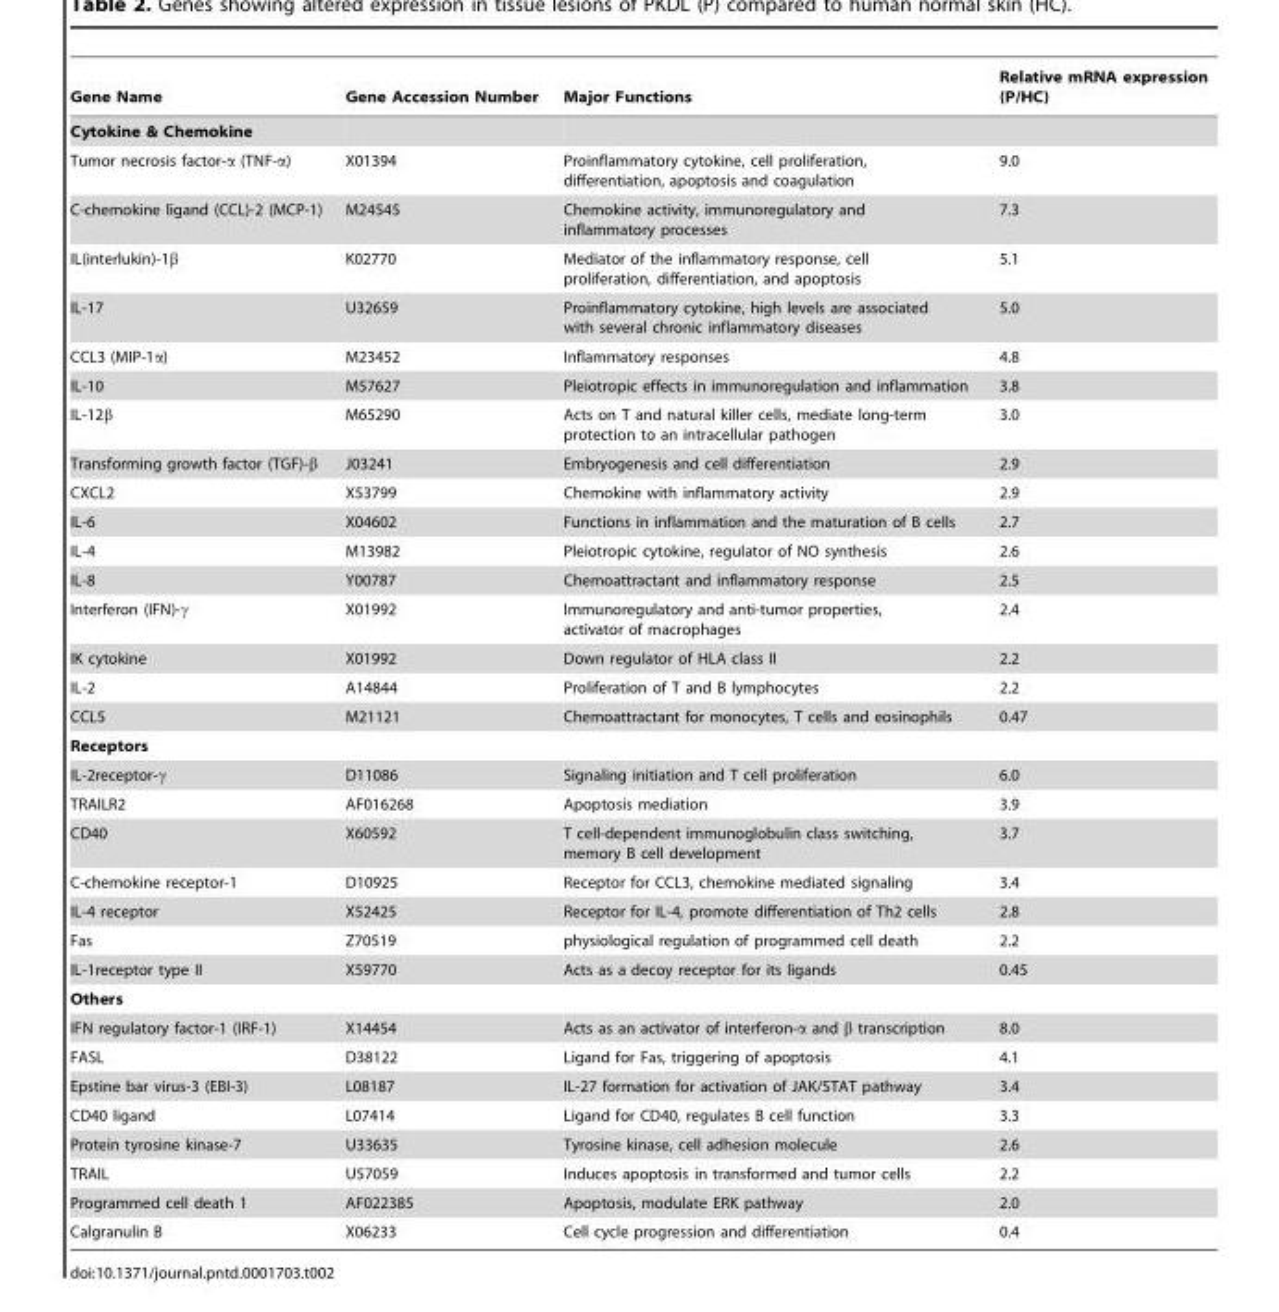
<table><thead><tr><td>Gene Name</td><td>Gene Accession Number</td><td>Major Functions</td><td>Relative mRNA expression (P/HC)</td></tr></thead><tbody><tr><td colspan="4">Cytokine &amp; Chemokine</td></tr><tr><td>Tumor necrosis factor-α (TNF-α)</td><td>X01394</td><td>Proinflammatory cytokine, cell proliferation, differentiation, apoptosis and coagulation</td><td>9.0</td></tr><tr><td>C-chemokine ligand (CCL)-2 (MCP-1)</td><td>M24545</td><td>Chemokine activity, immunoregulatory and inflammatory processes</td><td>7.3</td></tr><tr><td>IL(interlukin)-1β</td><td>K02770</td><td>Mediator of the inflammatory response, cell proliferation, differentiation, and apoptosis</td><td>5.1</td></tr><tr><td>IL-17</td><td>U32659</td><td>Proinflammatory cytokine, high levels are associated with several chronic inflammatory diseases</td><td>5.0</td></tr><tr><td>CCL3 (MIP-1α)</td><td>M23452</td><td>Inflammatory responses</td><td>4.8</td></tr><tr><td>IL-10</td><td>M57627</td><td>Pleiotropic effects in immunoregulation and inflammation</td><td>3.8</td></tr><tr><td>IL-12β</td><td>M65290</td><td>Acts on T and natural killer cells, mediate long-term protection to an intracellular pathogen</td><td>3.0</td></tr><tr><td>Transforming growth factor (TGF)-β</td><td>J03241</td><td>Embryogenesis and cell differentiation</td><td>2.9</td></tr><tr><td>CXCL2</td><td>X53799</td><td>Chemokine with inflammatory activity</td><td>2.9</td></tr><tr><td>IL-6</td><td>X04602</td><td>Functions in inflammation and the maturation of B cells</td><td>2.7</td></tr><tr><td>IL-4</td><td>M13982</td><td>Pleiotropic cytokine, regulator of NO synthesis</td><td>2.6</td></tr><tr><td>IL-8</td><td>Y00787</td><td>Chemoattractant and inflammatory response</td><td>2.5</td></tr><tr><td>Interferon (IFN)-γ</td><td>X01992</td><td>Immunoregulatory and anti-tumor properties, activator of macrophages</td><td>2.4</td></tr><tr><td>IK cytokine</td><td>X01992</td><td>Down regulator of HLA class II</td><td>2.2</td></tr><tr><td>IL-2</td><td>A14844</td><td>Proliferation of T and B lymphocytes</td><td>2.2</td></tr><tr><td>CCL5</td><td>M21121</td><td>Chemoattractant for monocytes, T cells and eosinophils</td><td>0.47</td></tr><tr><td colspan="4">Receptors</td></tr><tr><td>IL-2receptor-γ</td><td>D11086</td><td>Signaling initiation and T cell proliferation</td><td>6.0</td></tr><tr><td>TRAILR2</td><td>AF016268</td><td>Apoptosis mediation</td><td>3.9</td></tr><tr><td>CD40</td><td>X60592</td><td>T cell-dependent immunoglobulin class switching, memory B cell development</td><td>3.7</td></tr><tr><td>C-chemokine receptor-1</td><td>D10925</td><td>Receptor for CCL3, chemokine mediated signaling</td><td>3.4</td></tr><tr><td>IL-4 receptor</td><td>X52425</td><td>Receptor for IL-4, promote differentiation of Th2 cells</td><td>2.8</td></tr><tr><td>Fas</td><td>Z70519</td><td>physiological regulation of programmed cell death</td><td>2.2</td></tr><tr><td>IL-1receptor type II</td><td>X59770</td><td>Acts as a decoy receptor for its ligands</td><td>0.45</td></tr><tr><td colspan="4">Others</td></tr><tr><td>IFN regulatory factor-1 (IRF-1)</td><td>X14454</td><td>Acts as an activator of interferon-α and β transcription</td><td>8.0</td></tr><tr><td>FASL</td><td>D38122</td><td>Ligand for Fas, triggering of apoptosis</td><td>4.1</td></tr><tr><td>Epstine bar virus-3 (EBI-3)</td><td>L08187</td><td>IL-27 formation for activation of JAK/STAT pathway</td><td>3.4</td></tr><tr><td>CD40 ligand</td><td>L07414</td><td>Ligand for CD40, regulates B cell function</td><td>3.3</td></tr><tr><td>Protein tyrosine kinase-7</td><td>U33635</td><td>Tyrosine kinase, cell adhesion molecule</td><td>2.6</td></tr><tr><td>TRAIL</td><td>U57059</td><td>Induces apoptosis in transformed and tumor cells</td><td>2.2</td></tr><tr><td>Programmed cell death 1</td><td>AF022385</td><td>Apoptosis, modulate ERK pathway</td><td>2.0</td></tr><tr><td>Calgranulin B</td><td>X06233</td><td>Cell cycle progression and differentiation</td><td>0.4</td></tr></tbody></table>